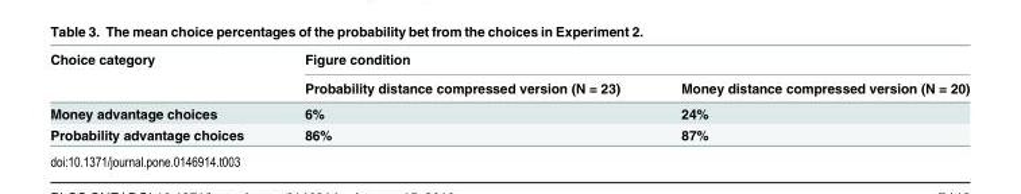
<table><thead><tr><td rowspan="2">Choice category</td><td colspan="2">Figure condition</td></tr><tr><td>Probability distance compressed version (N = 23)</td><td>Money distance compressed version (N = 20)</td></tr></thead><tbody><tr><td>Money advantage choices</td><td>6%</td><td>24%</td></tr><tr><td>Probability advantage choices</td><td>86%</td><td>87%</td></tr></tbody></table>